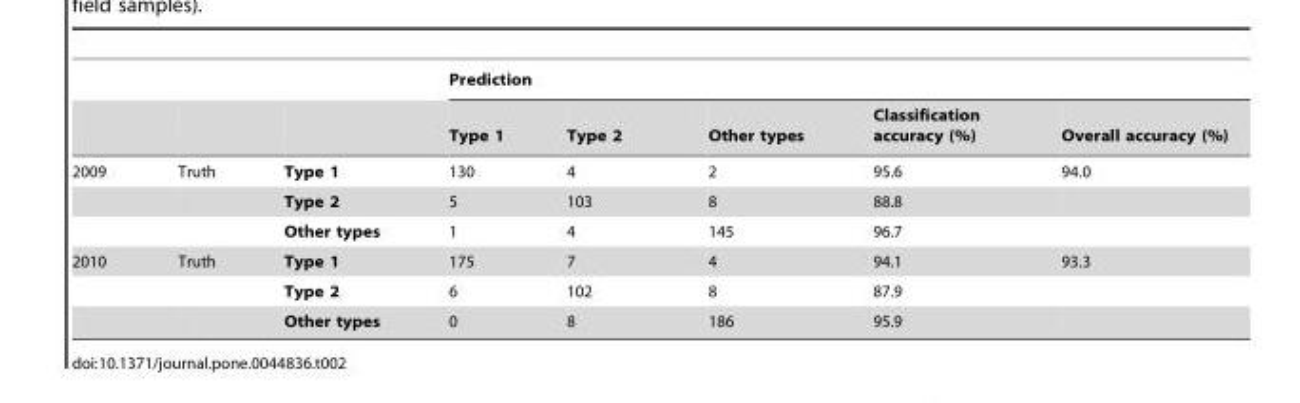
<table><thead><tr><td rowspan="2"></td><td rowspan="2"></td><td rowspan="2"></td><td colspan="5">Prediction</td></tr><tr><td>Type 1</td><td>Type 2</td><td>Other types</td><td>Classification accuracy (%)</td><td>Overall accuracy (%)</td></tr></thead><tbody><tr><td rowspan="3">2009</td><td>Truth</td><td>Type 1</td><td>130</td><td>4</td><td>2</td><td>95.6</td><td>94.0</td></tr><tr><td></td><td>Type 2</td><td>5</td><td>103</td><td>8</td><td>88.8</td><td></td></tr><tr><td></td><td>Other types</td><td>1</td><td>4</td><td>145</td><td>96.7</td><td></td></tr><tr><td rowspan="3">2010</td><td>Truth</td><td>Type 1</td><td>175</td><td>7</td><td>4</td><td>94.1</td><td>93.3</td></tr><tr><td></td><td>Type 2</td><td>6</td><td>102</td><td>8</td><td>87.9</td><td></td></tr><tr><td></td><td>Other types</td><td>0</td><td>8</td><td>186</td><td>95.9</td><td></td></tr></tbody></table>